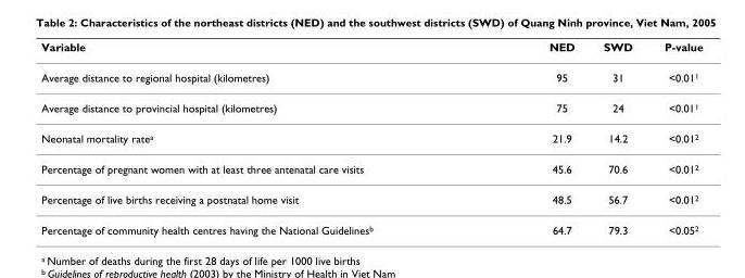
<table><thead><tr><td>Variable</td><td>NED</td><td>SWD</td><td>P-value</td></tr></thead><tbody><tr><td>Average distance to regional hospital (kilometres)</td><td>95</td><td>31</td><td>&lt;0.01<sup>1</sup></td></tr><tr><td>Average distance to provincial hospital (kilometres)</td><td>75</td><td>24</td><td>&lt;0.01<sup>1</sup></td></tr><tr><td>Neonatal mortality rate<sup>a</sup></td><td>21.9</td><td>14.2</td><td>&lt;0.01<sup>2</sup></td></tr><tr><td>Percentage of pregnant women with at least three antenatal care visits</td><td>45.6</td><td>70.6</td><td>&lt;0.01<sup>2</sup></td></tr><tr><td>Percentage of live births receiving a postnatal home visit</td><td>48.5</td><td>56.7</td><td>&lt;0.01<sup>2</sup></td></tr><tr><td>Percentage of community health centres having the National Guidelines<sup>b</sup></td><td>64.7</td><td>79.3</td><td>&lt;0.05<sup>2</sup></td></tr></tbody></table>